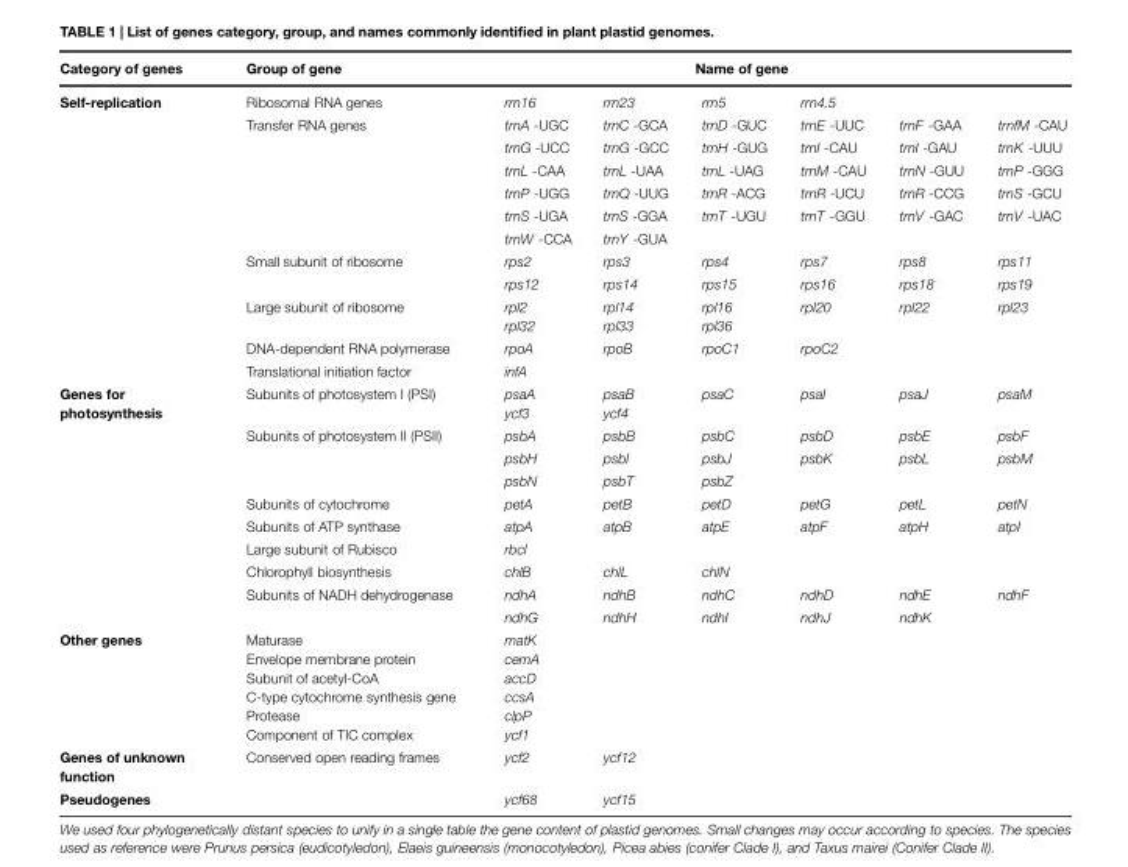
<table><thead><tr><td rowspan="2">Category of genes Self-replication</td><td rowspan="2">Group of gene Ribosomal RNA genes</td><td colspan="6">Name of gene</td></tr><tr><td>rrn16</td><td>rrn23</td><td>rrn5</td><td>rrn4.5</td><td></td><td></td></tr></thead><tbody><tr><td></td><td>Transfer RNA genes</td><td>trnA -UGC</td><td>trnC -GCA</td><td>trnD -GUC</td><td>trnE -UUC</td><td>trnF -GAA</td><td>trnfM -CAU</td></tr><tr><td></td><td></td><td>trnG -UCC</td><td>trnG -GCC</td><td>trnH -GUG</td><td>trnI -CAU</td><td>trnI -GAU</td><td>trnK -UUU</td></tr><tr><td></td><td></td><td>trnL -CAA</td><td>trnL -UAA</td><td>trnL -UAG</td><td>trnM -CAU</td><td>trnN -GUU</td><td>trnP -GGG</td></tr><tr><td></td><td></td><td>trnP -UGG</td><td>trnQ -UUG</td><td>trnR -ACG</td><td>trnR -UCU</td><td>trnR -CCG</td><td>trnS -GCU</td></tr><tr><td></td><td></td><td>trnS -UGA</td><td>trnS -GGA</td><td>trnT -UGU</td><td>trnT -GGU</td><td>trnV -GAC</td><td>trnV -UAC</td></tr><tr><td></td><td></td><td>trnW -CCA</td><td>trnY -GUA</td><td></td><td></td><td></td><td></td></tr><tr><td></td><td>Small subunit of ribosome</td><td>rps2</td><td>rps3</td><td>rps4</td><td>rps7</td><td>rps8</td><td>rps11</td></tr><tr><td></td><td></td><td>rps12</td><td>rps14</td><td>rps15</td><td>rps16</td><td>rps18</td><td>rps19</td></tr><tr><td></td><td>Large subunit of ribosome</td><td>rpl2 rpl32</td><td>rpl14 rpl33</td><td>rpl16 rpl36</td><td>rpl20</td><td>rpl22</td><td>rpl23</td></tr><tr><td></td><td>DNA-dependent RNA polymerase</td><td>rpoA</td><td>rpoB</td><td>rpoC1</td><td>rpoC2</td><td></td><td></td></tr><tr><td></td><td>Translational initiation factor</td><td>infA</td><td></td><td></td><td></td><td></td><td></td></tr><tr><td rowspan="10">Genes for photosynthesis</td><td>Subunits of photosystem I (PSI)</td><td>psaA ycf3</td><td>psaB ycf4</td><td>psaC</td><td>psaI</td><td>psaJ</td><td>psaM</td></tr><tr><td>Subunits of photosystem II (PSII)</td><td>psbA</td><td>psbB</td><td>psbC</td><td>psbD</td><td>psbE</td><td>psbF</td></tr><tr><td></td><td>psbH</td><td>psbI</td><td>psbJ</td><td>psbK</td><td>psbL</td><td>psbM</td></tr><tr><td></td><td>psbN</td><td>psbT</td><td>psbZ</td><td></td><td></td><td></td></tr><tr><td>Subunits of cytochrome</td><td>petA</td><td>petB</td><td>petD</td><td>petG</td><td>petL</td><td>petN</td></tr><tr><td>Subunits of ATP synthase</td><td>atpA</td><td>atpB</td><td>atpE</td><td>atpF</td><td>atpH</td><td>atpI</td></tr><tr><td>Large subunit of Rubisco</td><td>rbcl</td><td></td><td></td><td></td><td></td><td></td></tr><tr><td>Chlorophyll biosynthesis</td><td>chlB</td><td>chlL</td><td>chlN</td><td></td><td></td><td></td></tr><tr><td>Subunits of NADH dehydrogenase</td><td>ndhA</td><td>ndhB</td><td>ndhC</td><td>ndhD</td><td>ndhE</td><td>ndhF</td></tr><tr><td></td><td>ndhG</td><td>ndhH</td><td>ndhI</td><td>ndhJ</td><td>ndhK</td><td></td></tr><tr><td>Other genes</td><td>Maturase Envelope membrane protein Subunit of acetyl-CoA C-type cytochrome synthesis gene Protease Component of TIC complex</td><td>matK cemA accD ccsA clpP ycf1</td><td></td><td></td><td></td><td></td><td></td></tr><tr><td>Genes of unknown function</td><td>Conserved open reading frames</td><td>ycf2</td><td>ycf12</td><td></td><td></td><td></td><td></td></tr><tr><td>Pseudogenes</td><td></td><td>ycf68</td><td>ycf15</td><td></td><td></td><td></td><td></td></tr></tbody></table>